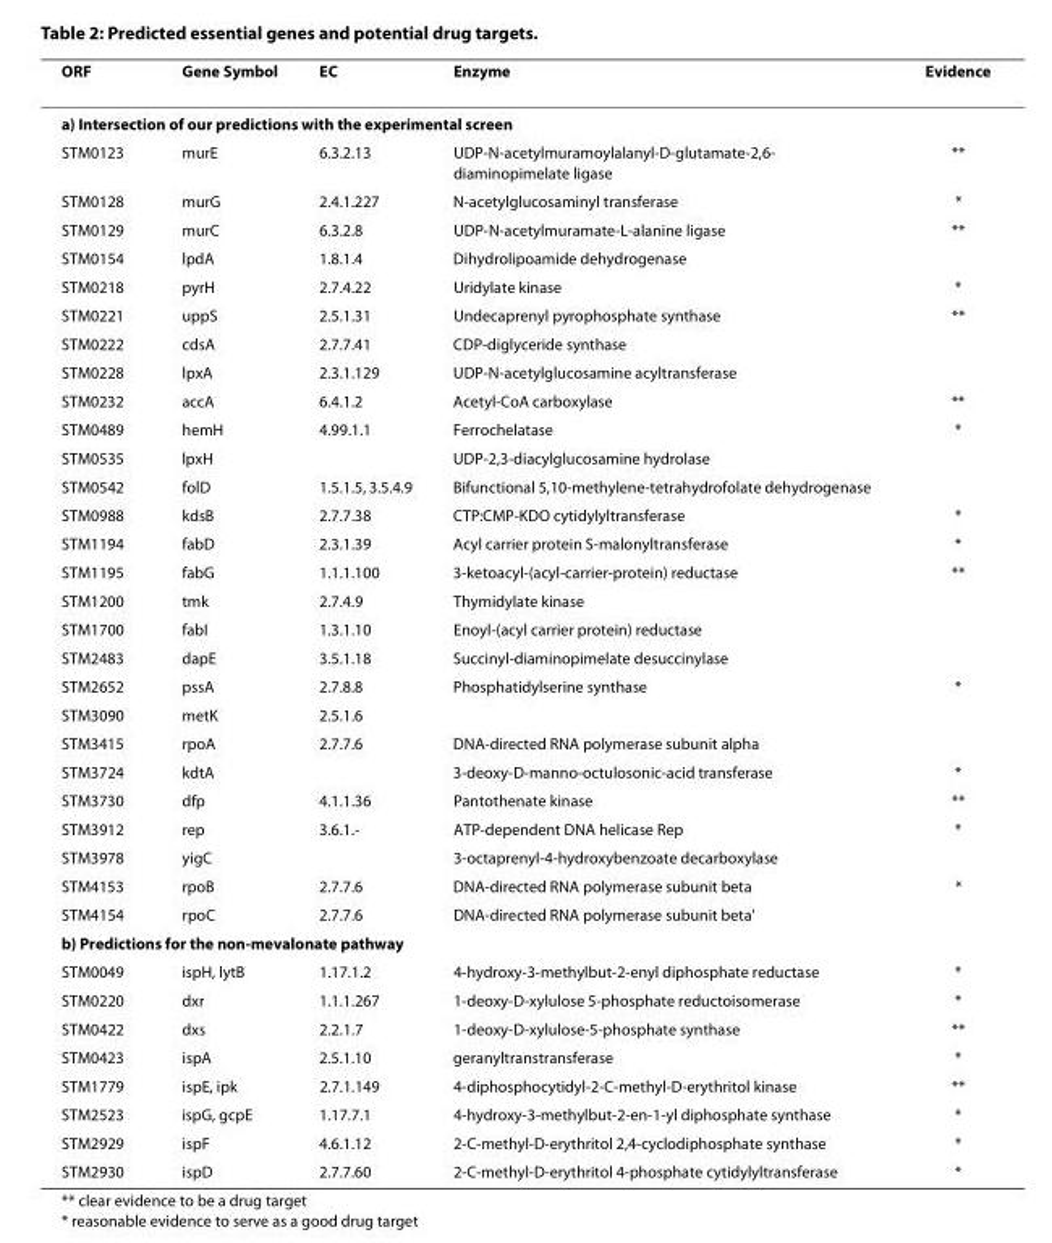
<table><thead><tr><td>ORF</td><td>Gene Symbol</td><td>EC</td><td>Enzyme</td><td>Evidence</td></tr></thead><tbody><tr><td colspan="5">a) Intersection of our predictions with the experimental screen</td></tr><tr><td>STM0123</td><td>murE</td><td>6.3.2.13</td><td>UDP-N-acetylmuramoylalanyl-D-glutamate-2,6- diaminopimelate ligase</td><td>**</td></tr><tr><td>STM0128</td><td>murG</td><td>2.4.1.227</td><td>N-acetylglucosaminyl transferase</td><td>*</td></tr><tr><td>STM0129</td><td>murC</td><td>6.3.2.8</td><td>UDP-N-acetylmuramate-L-alanine ligase</td><td>**</td></tr><tr><td>STM0154</td><td>lpdA</td><td>1.8.1.4</td><td>Dihydrolipoamide dehydrogenase</td><td></td></tr><tr><td>STM0218</td><td>pyrH</td><td>2.7.4.22</td><td>Uridylate kinase</td><td>*</td></tr><tr><td>STM0221</td><td>uppS</td><td>2.5.1.31</td><td>Undecaprenyl pyrophosphate synthase</td><td>**</td></tr><tr><td>STM0222</td><td>cdsA</td><td>2.7.7.41</td><td>CDP-diglyceride synthase</td><td></td></tr><tr><td>STM0228</td><td>lpxA</td><td>2.3.1.129</td><td>UDP-N-acetylglucosamine acyltransferase</td><td></td></tr><tr><td>STM0232</td><td>accA</td><td>6.4.1.2</td><td>Acetyl-CoA carboxylase</td><td>**</td></tr><tr><td>STM0489</td><td>hemH</td><td>4.99.1.1</td><td>Ferrochelatase</td><td>*</td></tr><tr><td>STM0535</td><td>lpxH</td><td></td><td>UDP-2,3-diacylglucosamine hydrolase</td><td></td></tr><tr><td>STM0542</td><td>folD</td><td>1.5.1.5, 3.5.4.9</td><td>Bifunctional 5,10-methylene-tetrahydrofolate dehydrogenase</td><td></td></tr><tr><td>STM0988</td><td>kdsB</td><td>2.7.7.38</td><td>CTP:CMP-KDO cytidylyltransferase</td><td>*</td></tr><tr><td>STM1194</td><td>fabD</td><td>2.3.1.39</td><td>Acyl carrier protein S-malonyltransferase</td><td>*</td></tr><tr><td>STM1195</td><td>fabG</td><td>1.1.1.100</td><td>3-ketoacyl-(acyl-carrier-protein) reductase</td><td>**</td></tr><tr><td>STM1200</td><td>tmk</td><td>2.7.4.9</td><td>Thymidylate kinase</td><td></td></tr><tr><td>STM1700</td><td>fabI</td><td>1.3.1.10</td><td>Enoyl-(acyl carrier protein) reductase</td><td></td></tr><tr><td>STM2483</td><td>dapE</td><td>3.5.1.18</td><td>Succinyl-diaminopimelate desuccinylase</td><td></td></tr><tr><td>STM2652</td><td>pssA</td><td>2.7.8.8</td><td>Phosphatidylserine synthase</td><td>*</td></tr><tr><td>STM3090</td><td>metK</td><td>2.5.1.6</td><td></td><td></td></tr><tr><td>STM3415</td><td>rpoA</td><td>2.7.7.6</td><td>DNA-directed RNA polymerase subunit alpha</td><td></td></tr><tr><td>STM3724</td><td>kdtA</td><td></td><td>3-deoxy-D-manno-octulosonic-acid transferase</td><td>*</td></tr><tr><td>STM3730</td><td>dfp</td><td>4.1.1.36</td><td>Pantothenate kinase</td><td>**</td></tr><tr><td>STM3912</td><td>rep</td><td>3.6.1.-</td><td>ATP-dependent DNA helicase Rep</td><td>*</td></tr><tr><td>STM3978</td><td>yigC</td><td></td><td>3-octaprenyl-4-hydroxybenzoate decarboxylase</td><td></td></tr><tr><td>STM4153</td><td>rpoB</td><td>2.7.7.6</td><td>DNA-directed RNA polymerase subunit beta</td><td>*</td></tr><tr><td>STM4154</td><td>rpoC</td><td>2.7.7.6</td><td>DNA-directed RNA polymerase subunit beta&#x27;</td><td></td></tr><tr><td colspan="5">b) Predictions for the non-mevalonate pathway</td></tr><tr><td>STM0049</td><td>ispH, lytB</td><td>1.17.1.2</td><td>4-hydroxy-3-methylbut-2-enyl diphosphate reductase</td><td>*</td></tr><tr><td>STM0220</td><td>dxr</td><td>1.1.1.267</td><td>1-deoxy-D-xylulose 5-phosphate reductoisomerase</td><td>*</td></tr><tr><td>STM0422</td><td>dxs</td><td>2.2.1.7</td><td>1-deoxy-D-xylulose-5-phosphate synthase</td><td>**</td></tr><tr><td>STM0423</td><td>ispA</td><td>2.5.1.10</td><td>geranyltranstransferase</td><td>*</td></tr><tr><td>STM1779</td><td>ispE, ipk</td><td>2.7.1.149</td><td>4-diphosphocytidyl-2-C-methyl-D-erythritol kinase</td><td>**</td></tr><tr><td>STM2523</td><td>ispG, gcpE</td><td>1.17.7.1</td><td>4-hydroxy-3-methylbut-2-en-1-yl diphosphate synthase</td><td>*</td></tr><tr><td>STM2929</td><td>ispF</td><td>4.6.1.12</td><td>2-C-methyl-D-erythritol 2,4-cyclodiphosphate synthase</td><td>*</td></tr><tr><td>STM2930</td><td>ispD</td><td>2.7.7.60</td><td>2-C-methyl-D-erythritol 4-phosphate cytidylyltransferase</td><td>*</td></tr></tbody></table>